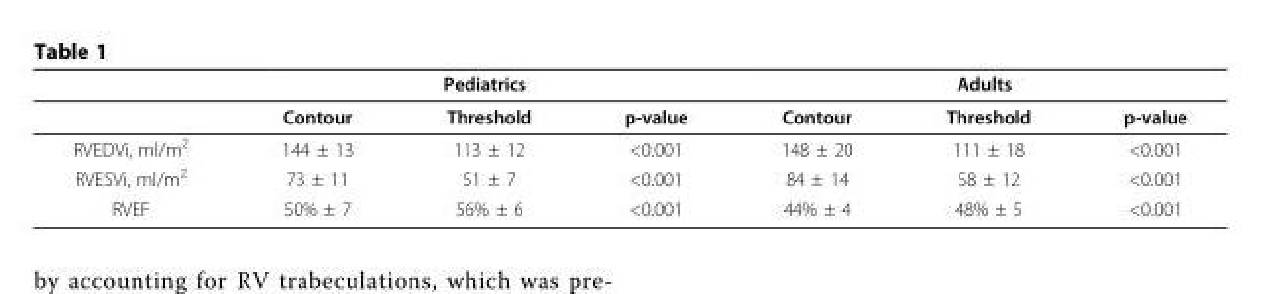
<table><thead><tr><td rowspan="2"></td><td colspan="3">Pediatrics</td><td colspan="3">Adults</td></tr><tr><td>Contour</td><td>Threshold</td><td>p-value</td><td>Contour</td><td>Threshold</td><td>p-value</td></tr></thead><tbody><tr><td>RVEDVi, ml/m<sup>2</sup></td><td>144 ± 13</td><td>113 ± 12</td><td>&lt;0.001</td><td>148 ± 20</td><td>111 ± 18</td><td>&lt;0.001</td></tr><tr><td>RVESVi, ml/m<sup>2</sup></td><td>73 ± 11</td><td>51 ± 7</td><td>&lt;0.001</td><td>84 ± 14</td><td>58 ± 12</td><td>&lt;0.001</td></tr><tr><td>RVEF</td><td>50% ± 7</td><td>56% ± 6</td><td>&lt;0.001</td><td>44% ± 4</td><td>48% ± 5</td><td>&lt;0.001</td></tr></tbody></table>